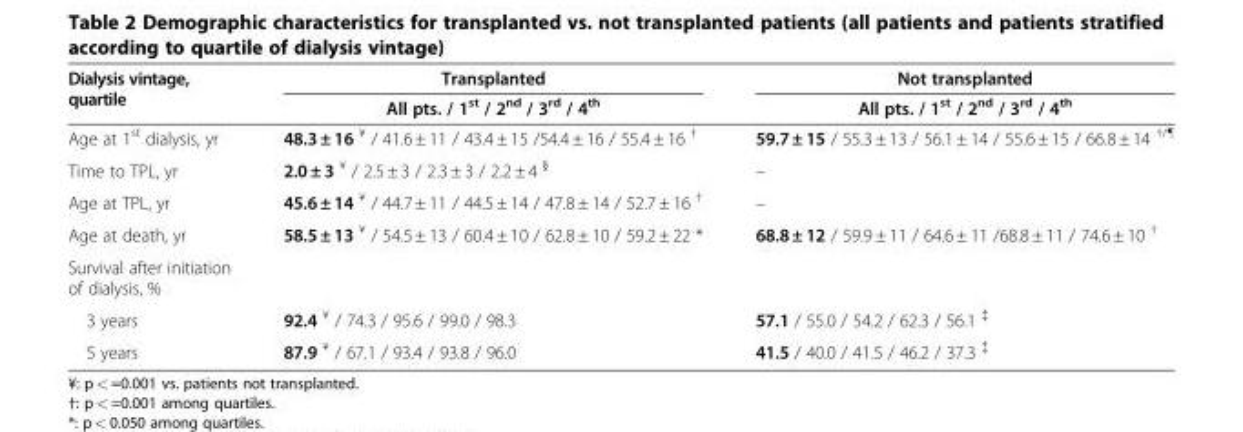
<table><thead><tr><td rowspan="2">Dialysis vintage, quartile</td><td rowspan="2">Transplanted All pts. / 1<sup>st</sup> / 2<sup>nd</sup> / 3<sup>rd</sup> / 4<sup>th</sup></td><td rowspan="2">Not transplanted All pts. / 1<sup>st</sup> / 2<sup>nd</sup> / 3<sup>rd</sup> / 4<sup>th</sup></td></tr><tr></tr></thead><tbody><tr><td>Age at 1<sup>st</sup> dialysis, yr</td><td>48.3 ± 16 <sup>¥</sup> / 41.6 ± 11 / 43.4 ± 15 /54.4 ± 16 / 55.4 ± 16 <sup>†</sup></td><td>59.7 ± 15 / 55.3 ± 13 / 56.1 ± 14 / 55.6 ± 15 / 66.8 ± 14 <sup>†/¶</sup></td></tr><tr><td>Time to TPL, yr</td><td>2.0 ± 3 <sup>¥</sup> / 2.5 ± 3 / 2.3 ± 3 / 2.2 ± 4 <sup>§</sup></td><td>–</td></tr><tr><td>Age at TPL, yr</td><td>45.6 ± 14 <sup>¥</sup> / 44.7 ± 11 / 44.5 ± 14 / 47.8 ± 14 / 52.7 ± 16 <sup>†</sup></td><td>–</td></tr><tr><td>Age at death, yr</td><td>58.5 ± 13 <sup>¥</sup> / 54.5 ± 13 / 60.4 ± 10 / 62.8 ± 10 / 59.2 ± 22 *</td><td>68.8 ± 12 / 59.9 ± 11 / 64.6 ± 11 /68.8 ± 11 / 74.6 ± 10 <sup>†</sup></td></tr><tr><td colspan="3">Survival after initiation of dialysis, %</td></tr><tr><td>3 years</td><td>92.4 <sup>¥</sup> / 74.3 / 95.6 / 99.0 / 98.3</td><td>57.1 / 55.0 / 54.2 / 62.3 / 56.1 <sup>‡</sup></td></tr><tr><td>5 years</td><td>87.9 <sup>¥</sup> / 67.1 / 93.4 / 93.8 / 96.0</td><td>41.5 / 40.0 / 41.5 / 46.2 / 37.3 <sup>‡</sup></td></tr></tbody></table>